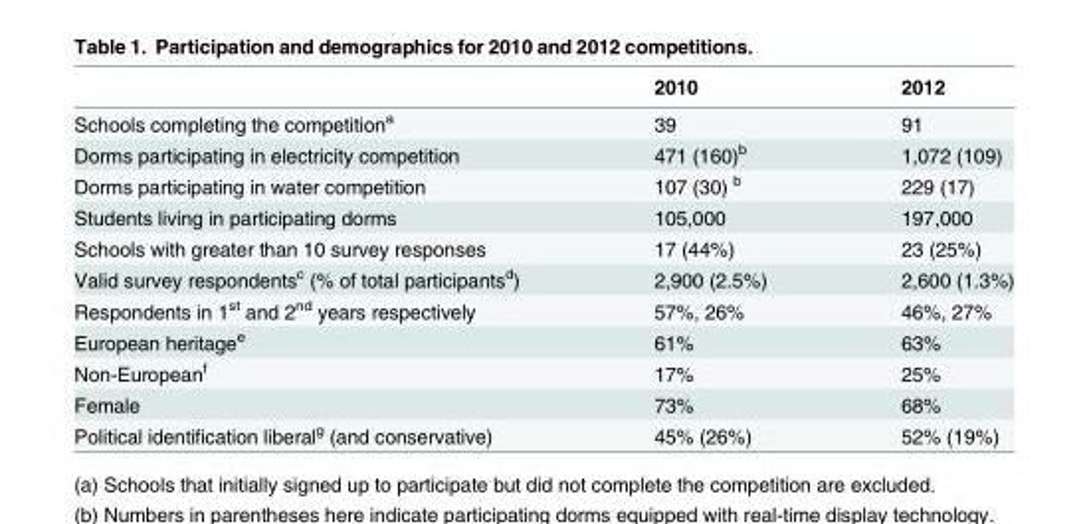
<table><thead><tr><td></td><td>2010</td><td>2012</td></tr></thead><tbody><tr><td>Schools completing the competition<sup>a</sup></td><td>39</td><td>91</td></tr><tr><td>Dorms participating in electricity competition</td><td>471 (160)<sup>b</sup></td><td>1,072 (109)</td></tr><tr><td>Dorms participating in water competition</td><td>107 (30) <sup>b</sup></td><td>229 (17)</td></tr><tr><td>Students living in participating dorms</td><td>105,000</td><td>197,000</td></tr><tr><td>Schools with greater than 10 survey responses</td><td>17 (44%)</td><td>23 (25%)</td></tr><tr><td>Valid survey respondents<sup>c</sup> (% of total participants<sup>d</sup>)</td><td>2,900 (2.5%)</td><td>2,600 (1.3%)</td></tr><tr><td>Respondents in 1<sup>st</sup> and 2<sup>nd</sup> years respectively</td><td>57%, 26%</td><td>46%, 27%</td></tr><tr><td>European heritage<sup>e</sup></td><td>61%</td><td>63%</td></tr><tr><td>Non-European<sup>f</sup></td><td>17%</td><td>25%</td></tr><tr><td>Female</td><td>73%</td><td>68%</td></tr><tr><td>Political identification liberal<sup>g</sup> (and conservative)</td><td>45% (26%)</td><td>52% (19%)</td></tr></tbody></table>